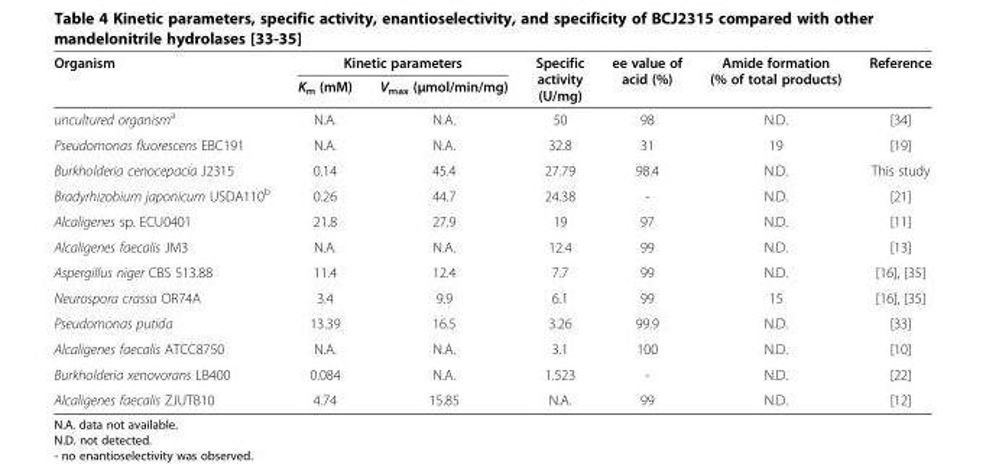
<table><thead><tr><td rowspan="2">Organism</td><td colspan="2">Kinetic parameters</td><td rowspan="2">Specific activity (U/mg)</td><td rowspan="2">ee value of acid (%)</td><td rowspan="2">Amide formation (% of total products)</td><td rowspan="2">Reference</td></tr><tr><td>K<sub>m</sub> (mM)</td><td>V<sub>max</sub> (μmol/min/mg)</td></tr></thead><tbody><tr><td>uncultured organism<sup>a</sup></td><td>N.A.</td><td>N.A.</td><td>50</td><td>98</td><td>N.D.</td><td>[34]</td></tr><tr><td>Pseudomonas fluorescens EBC191</td><td>N.A.</td><td>N.A.</td><td>32.8</td><td>31</td><td>19</td><td>[19]</td></tr><tr><td>Burkholderia cenocepacia J2315</td><td>0.14</td><td>45.4</td><td>27.79</td><td>98.4</td><td>N.D.</td><td>This study</td></tr><tr><td>Bradyrhizobium japonicum USDA110<sup>b</sup></td><td>0.26</td><td>44.7</td><td>24.38</td><td>-</td><td>N.D.</td><td>[21]</td></tr><tr><td>Alcaligenes sp. ECU0401</td><td>21.8</td><td>27.9</td><td>19</td><td>97</td><td>N.D.</td><td>[11]</td></tr><tr><td>Alcaligenes faecalis JM3</td><td>N.A.</td><td>N.A.</td><td>12.4</td><td>99</td><td>N.D.</td><td>[13]</td></tr><tr><td>Aspergillus niger CBS 513.88</td><td>11.4</td><td>12.4</td><td>7.7</td><td>99</td><td>N.D.</td><td>[16], [35]</td></tr><tr><td>Neurospora crassa OR74A</td><td>3.4</td><td>9.9</td><td>6.1</td><td>99</td><td>15</td><td>[16], [35]</td></tr><tr><td>Pseudomonas putida</td><td>13.39</td><td>16.5</td><td>3.26</td><td>99.9</td><td>N.D.</td><td>[33]</td></tr><tr><td>Alcaligenes faecalis ATCC8750</td><td>N.A.</td><td>N.A.</td><td>3.1</td><td>100</td><td>N.D.</td><td>[10]</td></tr><tr><td>Burkholderia xenovorans LB400</td><td>0.084</td><td>N.A.</td><td>1.523</td><td>-</td><td>N.D.</td><td>[22]</td></tr><tr><td>Alcaligenes faecalis ZJUTB10</td><td>4.74</td><td>15.85</td><td>N.A.</td><td>99</td><td>N.D.</td><td>[12]</td></tr></tbody></table>